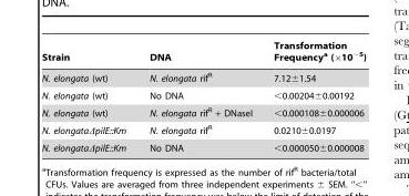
<table><thead><tr><td>Strain</td><td>DNA</td><td>Transformation Frequency<sup>a</sup> (×10<sup>−5</sup>)</td></tr></thead><tbody><tr><td>N. elongata (wt)</td><td>N. elongata rif<sup>R</sup></td><td>7.12±1.54</td></tr><tr><td>N. elongata (wt)</td><td>No DNA</td><td>&lt;0.00204±0.00192</td></tr><tr><td>N. elongata (wt)</td><td>N. elongata rif<sup>R</sup> + DNaseI</td><td>&lt;0.000108±0.000006</td></tr><tr><td>N. elongataΔpilE::Km</td><td>N. elongata rif<sup>R</sup></td><td>0.0210±0.0197</td></tr><tr><td>N. elongataΔpilE::Km</td><td>No DNA</td><td>&lt;0.000050±0.000008</td></tr></tbody></table>